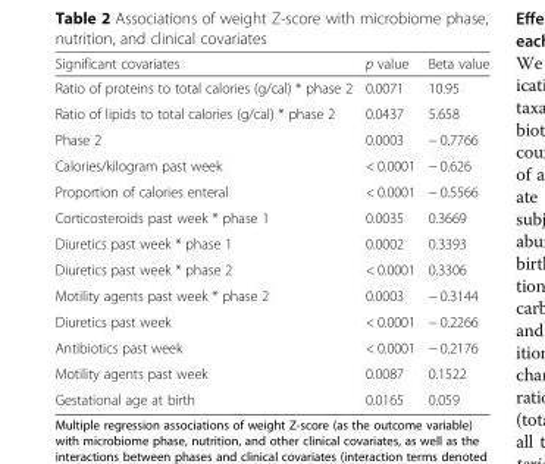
<table><thead><tr><td>Significant covariates</td><td>p value</td><td>Beta value</td></tr></thead><tbody><tr><td>Ratio of proteins to total calories (g/cal) * phase 2</td><td>0.0071</td><td>10.95</td></tr><tr><td>Ratio of lipids to total calories (g/cal) * phase 2</td><td>0.0437</td><td>5.658</td></tr><tr><td>Phase 2</td><td>0.0003</td><td>− 0.7766</td></tr><tr><td>Calories/kilogram past week</td><td>&lt; 0.0001</td><td>− 0.626</td></tr><tr><td>Proportion of calories enteral</td><td>&lt; 0.0001</td><td>− 0.5566</td></tr><tr><td>Corticosteroids past week * phase 1</td><td>0.0035</td><td>0.3669</td></tr><tr><td>Diuretics past week * phase 1</td><td>0.0002</td><td>0.3393</td></tr><tr><td>Diuretics past week * phase 2</td><td>&lt; 0.0001</td><td>0.3306</td></tr><tr><td>Motility agents past week * phase 2</td><td>0.0003</td><td>− 0.3144</td></tr><tr><td>Diuretics past week</td><td>&lt; 0.0001</td><td>− 0.2266</td></tr><tr><td>Antibiotics past week</td><td>&lt; 0.0001</td><td>− 0.2176</td></tr><tr><td>Motility agents past week</td><td>0.0087</td><td>0.1522</td></tr><tr><td>Gestational age at birth</td><td>0.0165</td><td>0.059</td></tr></tbody></table>